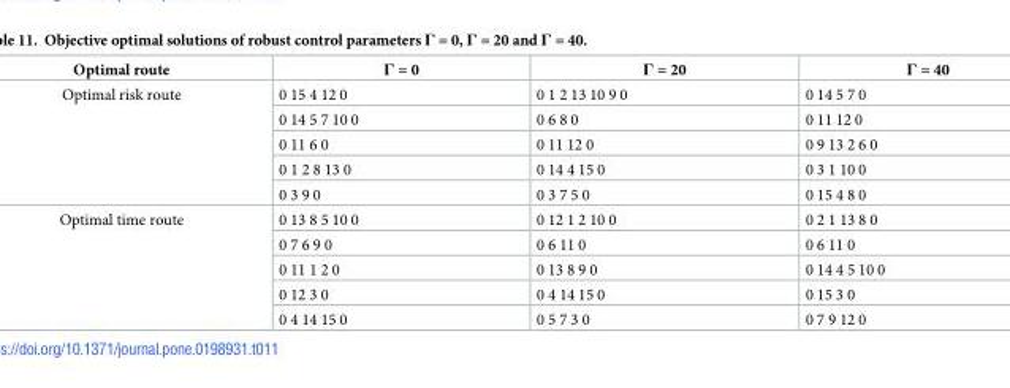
<table><thead><tr><td>Optimal route</td><td>Γ = 0</td><td>Γ = 20</td><td>Γ = 40</td></tr></thead><tbody><tr><td rowspan="5">Optimal risk route</td><td>0 15 4 12 0</td><td>0 1 2 13 10 9 0</td><td>0 14 5 7 0</td></tr><tr><td>0 14 5 7 10 0</td><td>0 6 8 0</td><td>0 11 12 0</td></tr><tr><td>0 11 6 0</td><td>0 11 12 0</td><td>0 9 13 2 6 0</td></tr><tr><td>0 1 2 8 13 0</td><td>0 14 4 15 0</td><td>0 3 1 10 0</td></tr><tr><td>0 3 9 0</td><td>0 3 7 5 0</td><td>0 15 4 8 0</td></tr><tr><td rowspan="5">Optimal time route</td><td>0 13 8 5 10 0</td><td>0 12 1 2 10 0</td><td>0 2 1 13 8 0</td></tr><tr><td>0 7 6 9 0</td><td>0 6 11 0</td><td>0 6 11 0</td></tr><tr><td>0 11 1 2 0</td><td>0 13 8 9 0</td><td>0 14 4 5 10 0</td></tr><tr><td>0 12 3 0</td><td>0 4 14 15 0</td><td>0 15 3 0</td></tr><tr><td>0 4 14 15 0</td><td>0 5 7 3 0</td><td>0 7 9 12 0</td></tr></tbody></table>